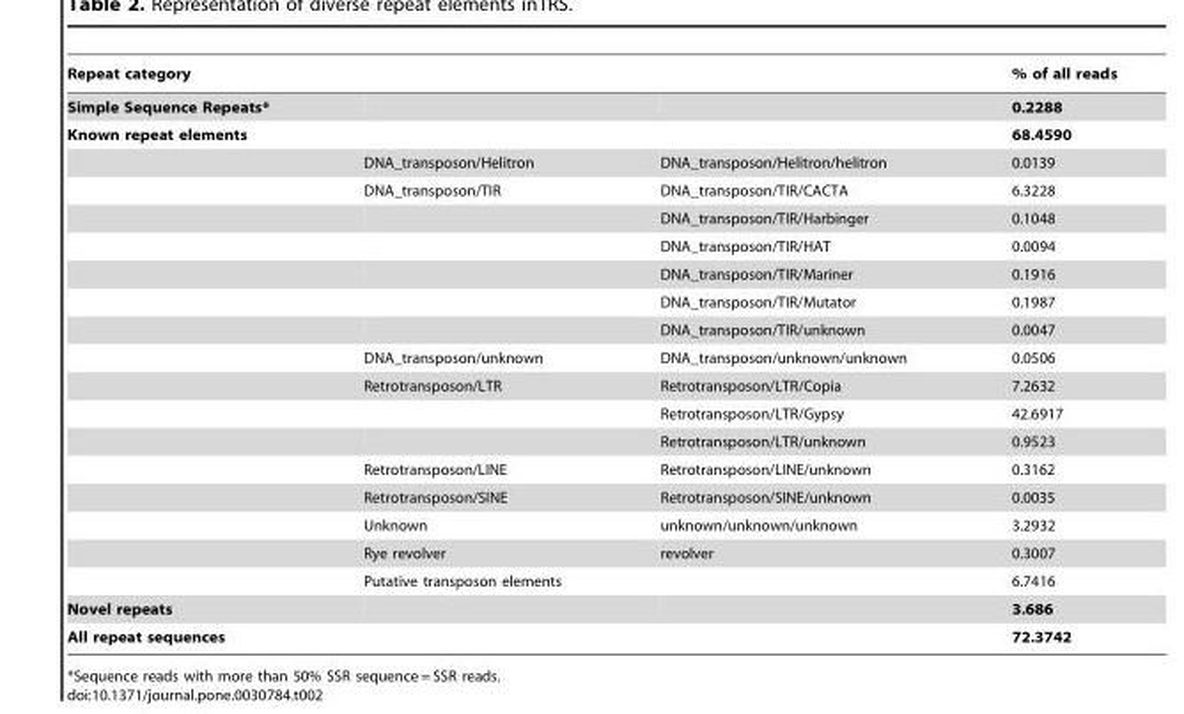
<table><thead><tr><td>Repeat category</td><td></td><td></td><td>% of all reads</td></tr></thead><tbody><tr><td>Simple Sequence Repeats*</td><td></td><td></td><td>0.2288</td></tr><tr><td rowspan="17">Known repeat elements</td><td></td><td></td><td>68.4590</td></tr><tr><td>DNA_transposon/Helitron</td><td>DNA_transposon/Helitron/helitron</td><td>0.0139</td></tr><tr><td>DNA_transposon/TIR</td><td>DNA_transposon/TIR/CACTA</td><td>6.3228</td></tr><tr><td></td><td>DNA_transposon/TIR/Harbinger</td><td>0.1048</td></tr><tr><td></td><td>DNA_transposon/TIR/HAT</td><td>0.0094</td></tr><tr><td></td><td>DNA_transposon/TIR/Mariner</td><td>0.1916</td></tr><tr><td></td><td>DNA_transposon/TIR/Mutator</td><td>0.1987</td></tr><tr><td></td><td>DNA_transposon/TIR/unknown</td><td>0.0047</td></tr><tr><td>DNA_transposon/unknown</td><td>DNA_transposon/unknown/unknown</td><td>0.0506</td></tr><tr><td>Retrotransposon/LTR</td><td>Retrotransposon/LTR/Copia</td><td>7.2632</td></tr><tr><td></td><td>Retrotransposon/LTR/Gypsy</td><td>42.6917</td></tr><tr><td></td><td>Retrotransposon/LTR/unknown</td><td>0.9523</td></tr><tr><td>Retrotransposon/LINE</td><td>Retrotransposon/LINE/unknown</td><td>0.3162</td></tr><tr><td>Retrotransposon/SINE</td><td>Retrotransposon/SINE/unknown</td><td>0.0035</td></tr><tr><td>Unknown</td><td>unknown/unknown/unknown</td><td>3.2932</td></tr><tr><td>Rye revolver</td><td>revolver</td><td>0.3007</td></tr><tr><td>Putative transposon elements</td><td></td><td>6.7416</td></tr><tr><td>Novel repeats</td><td></td><td></td><td>3.686</td></tr><tr><td>All repeat sequences</td><td></td><td></td><td>72.3742</td></tr></tbody></table>